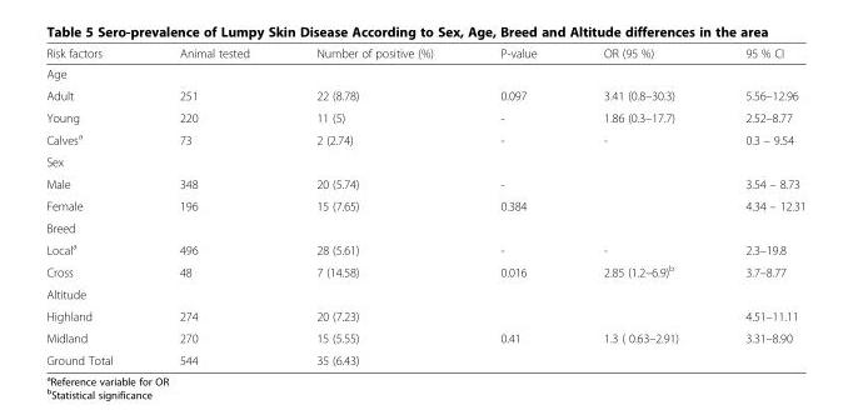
<table><thead><tr><td>Risk factors</td><td>Animal tested</td><td>Number of positive (%)</td><td>P-value</td><td>OR (95 %)</td><td>95 % CI</td></tr></thead><tbody><tr><td colspan="6">Age</td></tr><tr><td>Adult</td><td>251</td><td>22 (8.78)</td><td>0.097</td><td>3.41 (0.8–30.3)</td><td>5.56–12.96</td></tr><tr><td>Young</td><td>220</td><td>11 (5)</td><td>-</td><td>1.86 (0.3–17.7)</td><td>2.52–8.77</td></tr><tr><td>Calves<sup>a</sup></td><td>73</td><td>2 (2.74)</td><td>-</td><td>-</td><td>0.3 – 9.54</td></tr><tr><td colspan="6">Sex</td></tr><tr><td>Male</td><td>348</td><td>20 (5.74)</td><td>-</td><td></td><td>3.54 – 8.73</td></tr><tr><td>Female</td><td>196</td><td>15 (7.65)</td><td>0.384</td><td></td><td>4.34 – 12.31</td></tr><tr><td colspan="6">Breed</td></tr><tr><td>Local<sup>a</sup></td><td>496</td><td>28 (5.61)</td><td>-</td><td>-</td><td>2.3–19.8</td></tr><tr><td>Cross</td><td>48</td><td>7 (14.58)</td><td>0.016</td><td>2.85 (1.2–6.9)<sup>b</sup></td><td>3.7–8.77</td></tr><tr><td colspan="6">Altitude</td></tr><tr><td>Highland</td><td>274</td><td>20 (7.23)</td><td></td><td></td><td>4.51–11.11</td></tr><tr><td>Midland</td><td>270</td><td>15 (5.55)</td><td>0.41</td><td>1.3 ( 0.63–2.91)</td><td>3.31–8.90</td></tr><tr><td>Ground Total</td><td>544</td><td>35 (6.43)</td><td></td><td></td><td></td></tr></tbody></table>